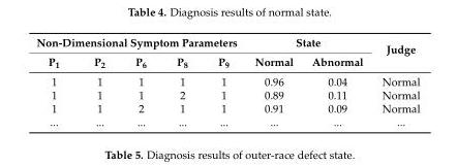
<table><thead><tr><td colspan="5">Non-Dimensional Symptom Parameters</td><td colspan="2">State</td><td rowspan="2">Judge</td></tr><tr><td>P<sub>1</sub></td><td>P<sub>2</sub></td><td>P<sub>6</sub></td><td>P<sub>8</sub></td><td>P<sub>9</sub></td><td>Normal</td><td>Abnormal</td></tr></thead><tbody><tr><td>1</td><td>1</td><td>1</td><td>1</td><td>1</td><td>0.96</td><td>0.04</td><td>Normal</td></tr><tr><td>1</td><td>1</td><td>1</td><td>2</td><td>1</td><td>0.89</td><td>0.11</td><td>Normal</td></tr><tr><td>1</td><td>1</td><td>2</td><td>1</td><td>1</td><td>0.91</td><td>0.09</td><td>Normal</td></tr><tr><td>...</td><td>...</td><td>...</td><td>...</td><td>...</td><td>...</td><td>...</td><td>...</td></tr></tbody></table>